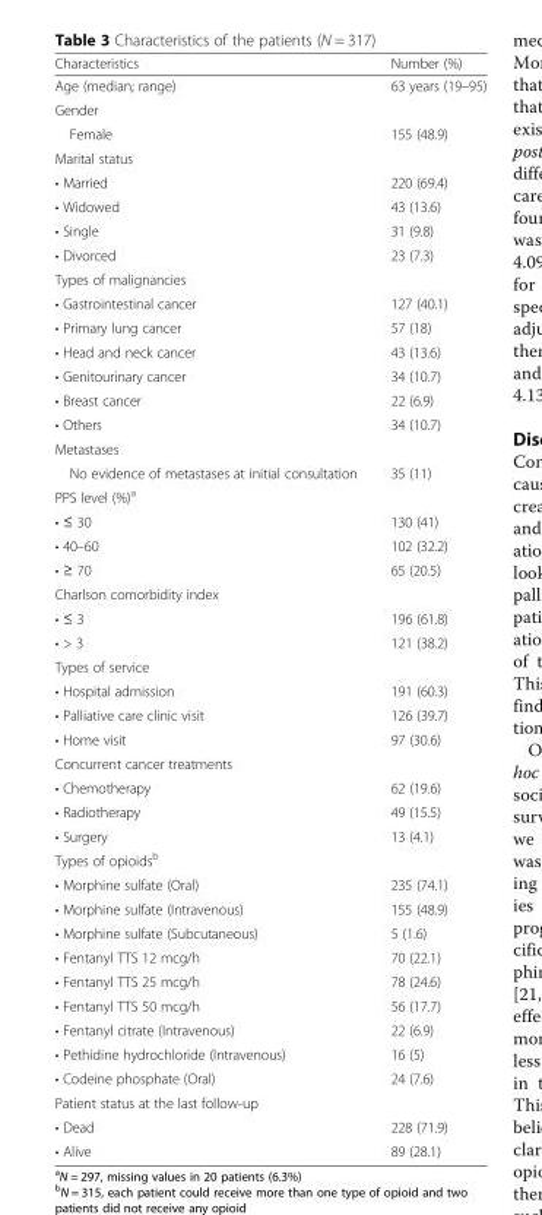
<table><thead><tr><td>Characteristics</td><td>Number (%)</td></tr></thead><tbody><tr><td>Age (median; range)</td><td>63 years (19–95)</td></tr><tr><td colspan="2">Gender</td></tr><tr><td>Female</td><td>155 (48.9)</td></tr><tr><td colspan="2">Marital status</td></tr><tr><td>• Married</td><td>220 (69.4)</td></tr><tr><td>• Widowed</td><td>43 (13.6)</td></tr><tr><td>• Single</td><td>31 (9.8)</td></tr><tr><td>• Divorced</td><td>23 (7.3)</td></tr><tr><td colspan="2">Types of malignancies</td></tr><tr><td>• Gastrointestinal cancer</td><td>127 (40.1)</td></tr><tr><td>• Primary lung cancer</td><td>57 (18)</td></tr><tr><td>• Head and neck cancer</td><td>43 (13.6)</td></tr><tr><td>• Genitourinary cancer</td><td>34 (10.7)</td></tr><tr><td>• Breast cancer</td><td>22 (6.9)</td></tr><tr><td>• Others</td><td>34 (10.7)</td></tr><tr><td colspan="2">Metastases</td></tr><tr><td>No evidence of metastases at initial consultation</td><td>35 (11)</td></tr><tr><td colspan="2">PPS level (%)<sup>a</sup></td></tr><tr><td>• ≤ 30</td><td>130 (41)</td></tr><tr><td>• 40–60</td><td>102 (32.2)</td></tr><tr><td>• ≥ 70</td><td>65 (20.5)</td></tr><tr><td colspan="2">Charlson comorbidity index</td></tr><tr><td>• ≤ 3</td><td>196 (61.8)</td></tr><tr><td>• &gt; 3</td><td>121 (38.2)</td></tr><tr><td colspan="2">Types of service</td></tr><tr><td>• Hospital admission</td><td>191 (60.3)</td></tr><tr><td>• Palliative care clinic visit</td><td>126 (39.7)</td></tr><tr><td>• Home visit</td><td>97 (30.6)</td></tr><tr><td colspan="2">Concurrent cancer treatments</td></tr><tr><td>• Chemotherapy</td><td>62 (19.6)</td></tr><tr><td>• Radiotherapy</td><td>49 (15.5)</td></tr><tr><td>• Surgery</td><td>13 (4.1)</td></tr><tr><td colspan="2">Types of opioids<sup>b</sup></td></tr><tr><td>• Morphine sulfate (Oral)</td><td>235 (74.1)</td></tr><tr><td>• Morphine sulfate (Intravenous)</td><td>155 (48.9)</td></tr><tr><td>• Morphine sulfate (Subcutaneous)</td><td>5 (1.6)</td></tr><tr><td>• Fentanyl TTS 12 mcg/h</td><td>70 (22.1)</td></tr><tr><td>• Fentanyl TTS 25 mcg/h</td><td>78 (24.6)</td></tr><tr><td>• Fentanyl TTS 50 mcg/h</td><td>56 (17.7)</td></tr><tr><td>• Fentanyl citrate (Intravenous)</td><td>22 (6.9)</td></tr><tr><td>• Pethidine hydrochloride (Intravenous)</td><td>16 (5)</td></tr><tr><td>• Codeine phosphate (Oral)</td><td>24 (7.6)</td></tr><tr><td colspan="2">Patient status at the last follow-up</td></tr><tr><td>• Dead</td><td>228 (71.9)</td></tr><tr><td>• Alive</td><td>89 (28.1)</td></tr></tbody></table>